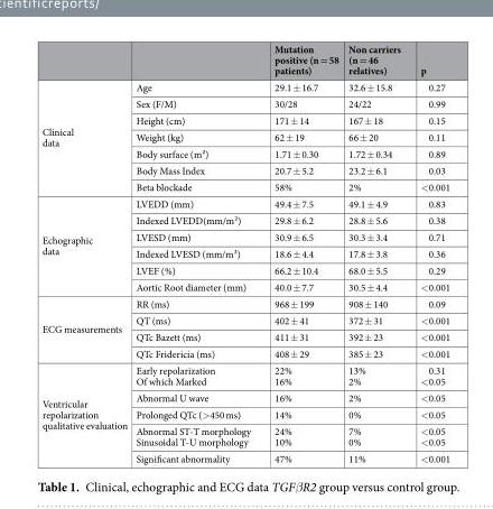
<table><thead><tr><td></td><td></td><td>Mutation positive (n = 58 patients)</td><td>Non carriers (n = 46 relatives)</td><td>p</td></tr></thead><tbody><tr><td rowspan="7">Clinical data</td><td>Age</td><td>29.1 ± 16.7</td><td>32.6 ± 15.8</td><td>0.27</td></tr><tr><td>Sex (F/M)</td><td>30/28</td><td>24/22</td><td>0.99</td></tr><tr><td>Height (cm)</td><td>171 ± 14</td><td>167 ± 18</td><td>0.15</td></tr><tr><td>Weight (kg)</td><td>62 ± 19</td><td>66 ± 20</td><td>0.11</td></tr><tr><td>Body surface (m²)</td><td>1.71 ± 0.30</td><td>1.72 ± 0.34</td><td>0.89</td></tr><tr><td>Body Mass Index</td><td>20.7 ± 5.2</td><td>23.2 ± 6.1</td><td>0.03</td></tr><tr><td>Beta blockade</td><td>58%</td><td>2%</td><td>&lt;0.001</td></tr><tr><td rowspan="6">Echographic data</td><td>LVEDD (mm)</td><td>49.4 ± 7.5</td><td>49.1 ± 4.9</td><td>0.83</td></tr><tr><td>Indexed LVEDD(mm/m²)</td><td>29.8 ± 6.2</td><td>28.8 ± 5.6</td><td>0.38</td></tr><tr><td>LVESD (mm)</td><td>30.9 ± 6.5</td><td>30.3 ± 3.4</td><td>0.71</td></tr><tr><td>Indexed LVESD (mm/m²)</td><td>18.6 ± 4.4</td><td>17.8 ± 3.8</td><td>0.36</td></tr><tr><td>LVEF (%)</td><td>66.2 ± 10.4</td><td>68.0 ± 5.5</td><td>0.29</td></tr><tr><td>Aortic Root diameter (mm)</td><td>40.0 ± 7.7</td><td>30.5 ± 4.4</td><td>&lt;0.001</td></tr><tr><td rowspan="4">ECG measurements</td><td>RR (ms)</td><td>968 ± 199</td><td>908 ± 140</td><td>0.09</td></tr><tr><td>QT (ms)</td><td>402 ± 41</td><td>372 ± 31</td><td>&lt;0.001</td></tr><tr><td>QTc Bazett (ms)</td><td>411 ± 31</td><td>392 ± 23</td><td>&lt;0.001</td></tr><tr><td>QTc Fridericia (ms)</td><td>408 ± 29</td><td>385 ± 23</td><td>&lt;0.001</td></tr><tr><td rowspan="5">Ventricular repolarization qualitative evaluation</td><td>Early repolarization Of which Marked</td><td>22% 16%</td><td>13% 2%</td><td>0.31 &lt;0.05</td></tr><tr><td>Abnormal U wave</td><td>16%</td><td>2%</td><td>&lt;0.05</td></tr><tr><td>Prolonged QTc (&gt;450 ms)</td><td>14%</td><td>0%</td><td>&lt;0.05</td></tr><tr><td>Abnormal ST-T morphology Sinusoidal T-U morphology</td><td>24% 10%</td><td>7% 0%</td><td>&lt;0.05 &lt;0.05</td></tr><tr><td>Significant abnormality</td><td>47%</td><td>11%</td><td>&lt;0.001</td></tr></tbody></table>